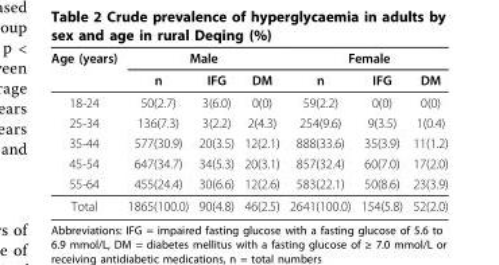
<table><thead><tr><td rowspan="2">Age (years)</td><td colspan="3">Male</td><td colspan="3">Female</td></tr><tr><td>n</td><td>IFG</td><td>DM</td><td>n</td><td>IFG</td><td>DM</td></tr></thead><tbody><tr><td>18-24</td><td>50(2.7)</td><td>3(6.0)</td><td>0(0)</td><td>59(2.2)</td><td>0(0)</td><td>0(0)</td></tr><tr><td>25-34</td><td>136(7.3)</td><td>3(2.2)</td><td>2(4.3)</td><td>254(9.6)</td><td>9(3.5)</td><td>1(0.4)</td></tr><tr><td>35-44</td><td>577(30.9)</td><td>20(3.5)</td><td>12(2.1)</td><td>888(33.6)</td><td>35(3.9)</td><td>11(1.2)</td></tr><tr><td>45-54</td><td>647(34.7)</td><td>34(5.3)</td><td>20(3.1)</td><td>857(32.4)</td><td>60(7.0)</td><td>17(2.0)</td></tr><tr><td>55-64</td><td>455(24.4)</td><td>30(6.6)</td><td>12(2.6)</td><td>583(22.1)</td><td>50(8.6)</td><td>23(3.9)</td></tr><tr><td>Total</td><td>1865(100.0)</td><td>90(4.8)</td><td>46(2.5)</td><td>2641(100.0)</td><td>154(5.8)</td><td>52(2.0)</td></tr></tbody></table>